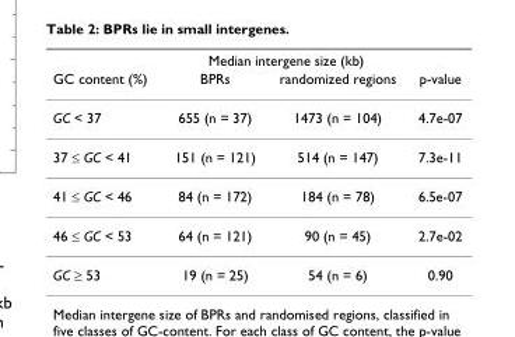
<table><thead><tr><td rowspan="2">GC content (%)</td><td colspan="2">Median intergene size (kb)</td><td rowspan="2">p-value</td></tr><tr><td>BPRs</td><td>randomized regions</td></tr></thead><tbody><tr><td>GC &lt; 37</td><td>655 (n = 37)</td><td>1473 (n = 104)</td><td>4.7e-07</td></tr><tr><td>37 ≤ GC &lt; 41</td><td>151 (n = 121)</td><td>514 (n = 147)</td><td>7.3e-11</td></tr><tr><td>41 ≤ GC &lt; 46</td><td>84 (n = 172)</td><td>184 (n = 78)</td><td>6.5e-07</td></tr><tr><td>46 ≤ GC &lt; 53</td><td>64 (n = 121)</td><td>90 (n = 45)</td><td>2.7e-02</td></tr><tr><td>GC ≥ 53</td><td>19 (n = 25)</td><td>54 (n = 6)</td><td>0.90</td></tr></tbody></table>